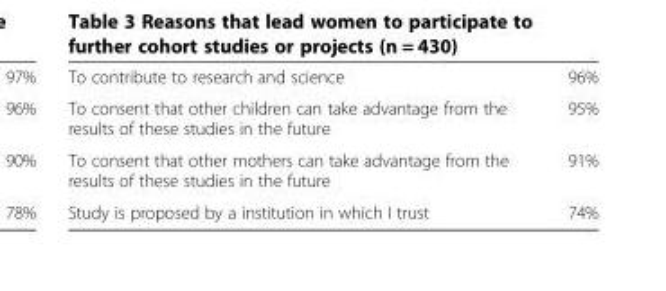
<table><tbody><tr><td>To contribute to research and science</td><td>96%</td></tr><tr><td>To consent that other children can take advantage from the results of these studies in the future</td><td>95%</td></tr><tr><td>To consent that other mothers can take advantage from the results of these studies in the future</td><td>91%</td></tr><tr><td>Study is proposed by a institution in which I trust</td><td>74%</td></tr></tbody></table>